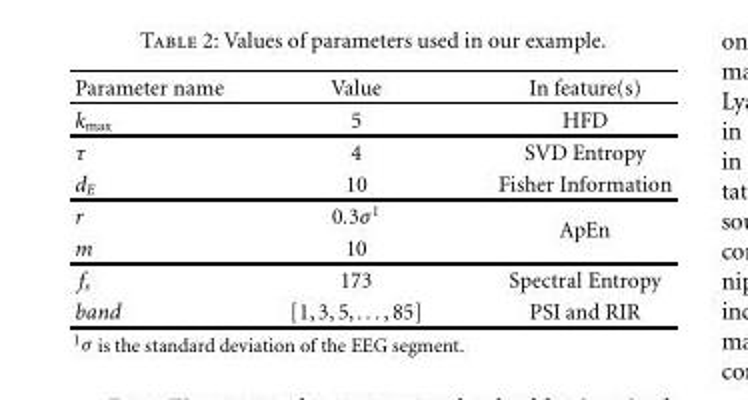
<table><thead><tr><td>Parameter name</td><td>Value</td><td>In feature(s)</td></tr></thead><tbody><tr><td>k<sub>max</sub></td><td>5</td><td>HFD</td></tr><tr><td>τ</td><td>4</td><td>SVD Entropy</td></tr><tr><td>d<sub>E</sub></td><td>10</td><td>Fisher Information</td></tr><tr><td>r</td><td>0.3σ<sup>1</sup></td><td rowspan="2">ApEn</td></tr><tr><td>m</td><td>10</td></tr><tr><td>f<sub>s</sub></td><td>173</td><td>Spectral Entropy</td></tr><tr><td>band</td><td>[1,3,5,. . .,85]</td><td>PSI and RIR</td></tr></tbody></table>